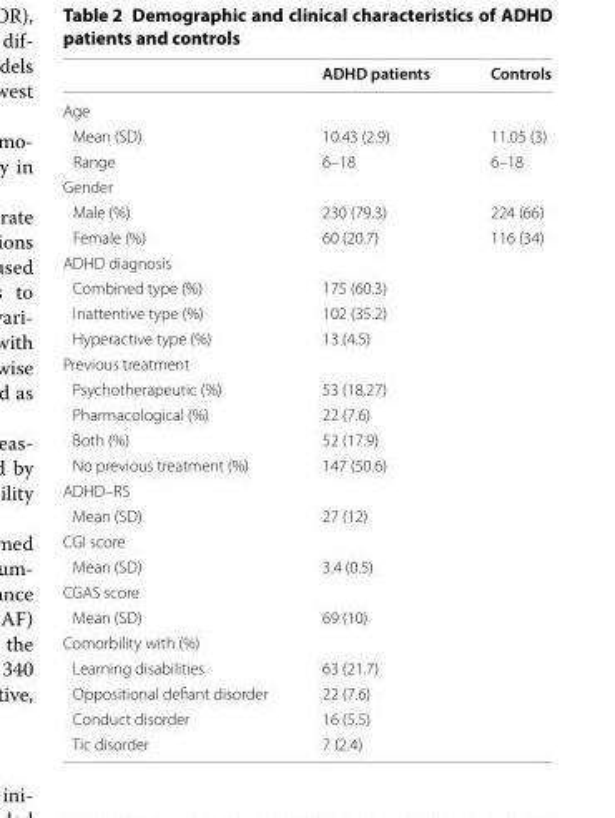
<table><thead><tr><td></td><td>ADHD patients</td><td>Controls</td></tr></thead><tbody><tr><td colspan="3">Age</td></tr><tr><td>Mean (SD)</td><td>10.43 (2.9)</td><td>11.05 (3)</td></tr><tr><td>Range</td><td>6–18</td><td>6–18</td></tr><tr><td colspan="3">Gender</td></tr><tr><td>Male (%)</td><td>230 (79.3)</td><td>224 (66)</td></tr><tr><td>Female (%)</td><td>60 (20.7)</td><td>116 (34)</td></tr><tr><td colspan="3">ADHD diagnosis</td></tr><tr><td>Combined type (%)</td><td>175 (60.3)</td><td></td></tr><tr><td>Inattentive type (%)</td><td>102 (35.2)</td><td></td></tr><tr><td>Hyperactive type (%)</td><td>13 (4.5)</td><td></td></tr><tr><td colspan="3">Previous treatment</td></tr><tr><td>Psychotherapeutic (%)</td><td>53 (18.27)</td><td></td></tr><tr><td>Pharmacological (%)</td><td>22 (7.6)</td><td></td></tr><tr><td>Both (%)</td><td>52 (17.9)</td><td></td></tr><tr><td>No previous treatment (%)</td><td>147 (50.6)</td><td></td></tr><tr><td colspan="3">ADHD–RS</td></tr><tr><td>Mean (SD)</td><td>27 (12)</td><td></td></tr><tr><td colspan="3">CGI score</td></tr><tr><td>Mean (SD)</td><td>3.4 (0.5)</td><td></td></tr><tr><td colspan="3">CGAS score</td></tr><tr><td>Mean (SD)</td><td>69 (10)</td><td></td></tr><tr><td colspan="3">Comorbility with (%)</td></tr><tr><td>Learning disabilities</td><td>63 (21.7)</td><td></td></tr><tr><td>Oppositional defiant disorder</td><td>22 (7.6)</td><td></td></tr><tr><td>Conduct disorder</td><td>16 (5.5)</td><td></td></tr><tr><td>Tic disorder</td><td>7 (2.4)</td><td></td></tr></tbody></table>